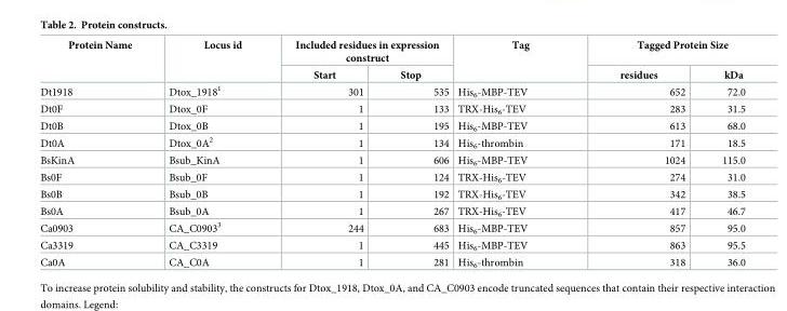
<table><thead><tr><td rowspan="2">Protein Name</td><td rowspan="2">Locus id</td><td colspan="2">Included residues in expression construct</td><td rowspan="2">Tag</td><td colspan="2">Tagged Protein Size</td></tr><tr><td>Start</td><td>Stop</td><td>residues</td><td>kDa</td></tr></thead><tbody><tr><td>Dt1918</td><td>Dtox_1918<sup>1</sup></td><td>301</td><td>535</td><td>His<sub>6</sub>-MBP-TEV</td><td>652</td><td>72.0</td></tr><tr><td>Dt0F</td><td>Dtox_0F</td><td>1</td><td>133</td><td>TRX-His<sub>6</sub>-TEV</td><td>283</td><td>31.5</td></tr><tr><td>Dt0B</td><td>Dtox_0B</td><td>1</td><td>195</td><td>His<sub>6</sub>-MBP-TEV</td><td>613</td><td>68.0</td></tr><tr><td>Dt0A</td><td>Dtox_0A<sup>2</sup></td><td>1</td><td>134</td><td>His<sub>6</sub>-thrombin</td><td>171</td><td>18.5</td></tr><tr><td>BsKinA</td><td>Bsub_KinA</td><td>1</td><td>606</td><td>His<sub>6</sub>-MBP-TEV</td><td>1024</td><td>115.0</td></tr><tr><td>Bs0F</td><td>Bsub_0F</td><td>1</td><td>124</td><td>TRX-His<sub>6</sub>-TEV</td><td>274</td><td>31.0</td></tr><tr><td>Bs0B</td><td>Bsub_0B</td><td>1</td><td>192</td><td>TRX-His<sub>6</sub>-TEV</td><td>342</td><td>38.5</td></tr><tr><td>Bs0A</td><td>Bsub_0A</td><td>1</td><td>267</td><td>TRX-His<sub>6</sub>-TEV</td><td>417</td><td>46.7</td></tr><tr><td>Ca0903</td><td>CA_C0903<sup>3</sup></td><td>244</td><td>683</td><td>His<sub>6</sub>-MBP-TEV</td><td>857</td><td>95.0</td></tr><tr><td>Ca3319</td><td>CA_C3319</td><td>1</td><td>445</td><td>His<sub>6</sub>-MBP-TEV</td><td>863</td><td>95.5</td></tr><tr><td>Ca0A</td><td>CA_C0A</td><td>1</td><td>281</td><td>His<sub>6</sub>-thrombin</td><td>318</td><td>36.0</td></tr></tbody></table>